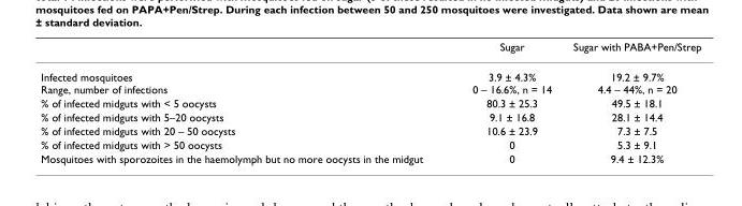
<table><thead><tr><td></td><td>Sugar</td><td>Sugar with PABA+Pen/Strep</td></tr></thead><tbody><tr><td>Infected mosquitoes Range, number of infections</td><td>3.9 ± 4.3% 0 – 16.6%, n = 14</td><td>19.2 ± 9.7% 4.4 – 44%, n = 20</td></tr><tr><td>% of infected midguts with &lt; 5 oocysts</td><td>80.3 ± 25.3</td><td>49.5 ± 18.1</td></tr><tr><td>% of infected midguts with 5–20 oocysts</td><td>9.1 ± 16.8</td><td>28.1 ± 14.4</td></tr><tr><td>% of infected midguts with 20 – 50 oocysts</td><td>10.6 ± 23.9</td><td>7.3 ± 7.5</td></tr><tr><td>% of infected midguts with &gt; 50 oocysts</td><td>0</td><td>5.3 ± 9.1</td></tr><tr><td>Mosquitoes with sporozoites in the haemolymph but no more oocysts in the midgut</td><td>0</td><td>9.4 ± 12.3%</td></tr></tbody></table>